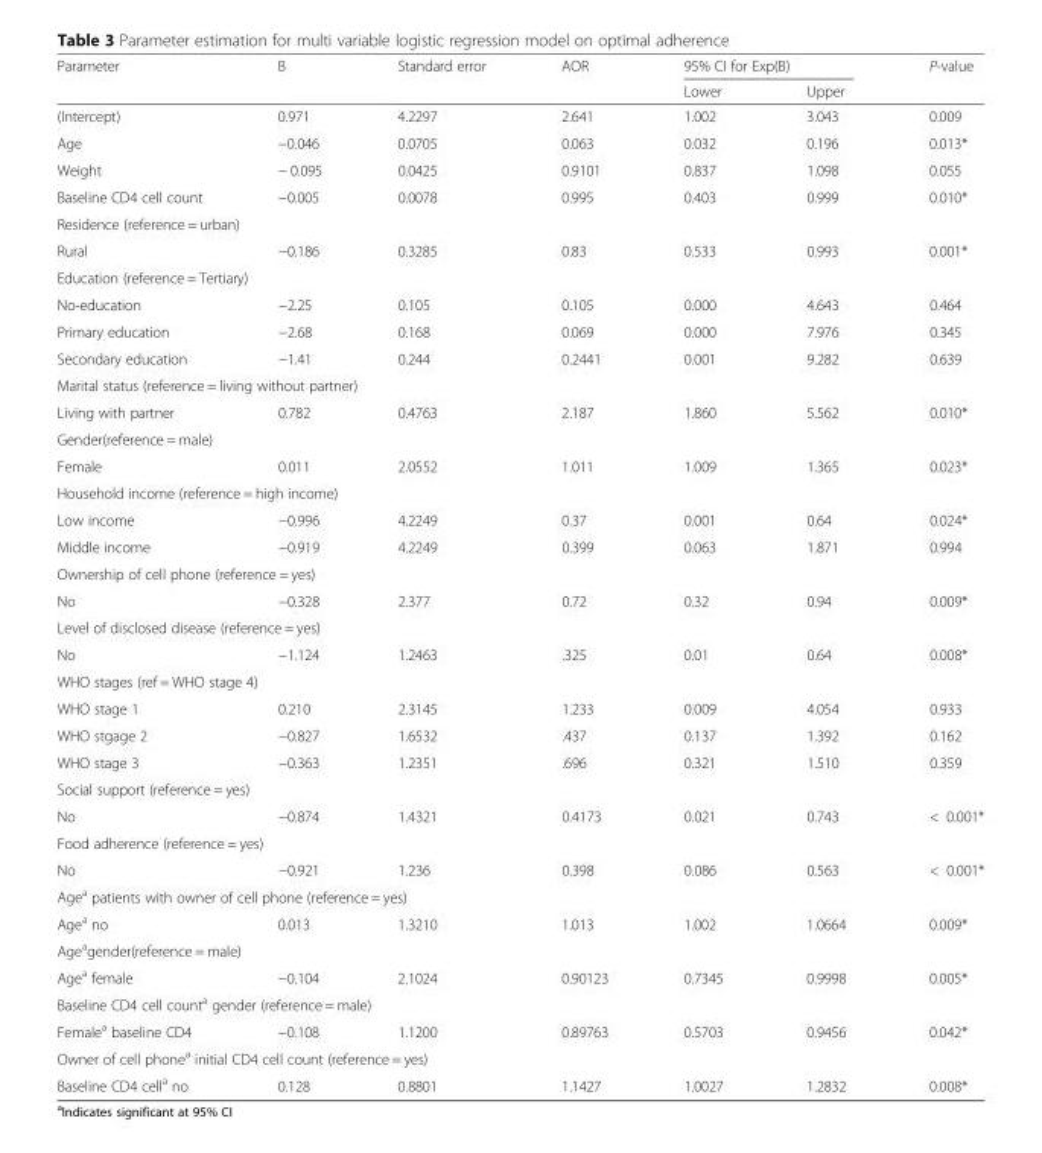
<table><thead><tr><td rowspan="2">Parameter</td><td rowspan="2">B</td><td rowspan="2">Standard error</td><td rowspan="2">AOR</td><td colspan="2">95% CI for Exp(B)</td><td rowspan="2">P-value</td></tr><tr><td>Lower</td><td>Upper</td></tr></thead><tbody><tr><td>(Intercept)</td><td>0.971</td><td>4.2297</td><td>2.641</td><td>1.002</td><td>3.043</td><td>0.009</td></tr><tr><td>Age</td><td>−0.046</td><td>0.0705</td><td>0.063</td><td>0.032</td><td>0.196</td><td>0.013*</td></tr><tr><td>Weight</td><td>− 0.095</td><td>0.0425</td><td>0.9101</td><td>0.837</td><td>1.098</td><td>0.055</td></tr><tr><td>Baseline CD4 cell count</td><td>−0.005</td><td>0.0078</td><td>0.995</td><td>0.403</td><td>0.999</td><td>0.010*</td></tr><tr><td colspan="7">Residence (reference = urban)</td></tr><tr><td>Rural</td><td>−0.186</td><td>0.3285</td><td>0.83</td><td>0.533</td><td>0.993</td><td>0.001*</td></tr><tr><td colspan="7">Education (reference = Tertiary)</td></tr><tr><td>No-education</td><td>−2.25</td><td>0.105</td><td>0.105</td><td>0.000</td><td>4.643</td><td>0.464</td></tr><tr><td>Primary education</td><td>−2.68</td><td>0.168</td><td>0.069</td><td>0.000</td><td>7.976</td><td>0.345</td></tr><tr><td>Secondary education</td><td>−1.41</td><td>0.244</td><td>0.2441</td><td>0.001</td><td>9.282</td><td>0.639</td></tr><tr><td colspan="7">Marital status (reference = living without partner)</td></tr><tr><td>Living with partner</td><td>0.782</td><td>0.4763</td><td>2.187</td><td>1.860</td><td>5.562</td><td>0.010*</td></tr><tr><td colspan="7">Gender(reference = male)</td></tr><tr><td>Female</td><td>0.011</td><td>2.0552</td><td>1.011</td><td>1.009</td><td>1.365</td><td>0.023*</td></tr><tr><td colspan="7">Household income (reference = high income)</td></tr><tr><td>Low income</td><td>−0.996</td><td>4.2249</td><td>0.37</td><td>0.001</td><td>0.64</td><td>0.024*</td></tr><tr><td>Middle income</td><td>−0.919</td><td>4.2249</td><td>0.399</td><td>0.063</td><td>1.871</td><td>0.994</td></tr><tr><td colspan="7">Ownership of cell phone (reference = yes)</td></tr><tr><td>No</td><td>−0.328</td><td>2.377</td><td>0.72</td><td>0.32</td><td>0.94</td><td>0.009*</td></tr><tr><td colspan="7">Level of disclosed disease (reference = yes)</td></tr><tr><td>No</td><td>−1.124</td><td>1.2463</td><td>.325</td><td>0.01</td><td>0.64</td><td>0.008*</td></tr><tr><td colspan="7">WHO stages (ref = WHO stage 4)</td></tr><tr><td>WHO stage 1</td><td>0.210</td><td>2.3145</td><td>1.233</td><td>0.009</td><td>4.054</td><td>0.933</td></tr><tr><td>WHO stgage 2</td><td>−0.827</td><td>1.6532</td><td>.437</td><td>0.137</td><td>1.392</td><td>0.162</td></tr><tr><td>WHO stage 3</td><td>−0.363</td><td>1.2351</td><td>.696</td><td>0.321</td><td>1.510</td><td>0.359</td></tr><tr><td colspan="7">Social support (reference = yes)</td></tr><tr><td>No</td><td>−0.874</td><td>1.4321</td><td>0.4173</td><td>0.021</td><td>0.743</td><td>&lt; 0.001*</td></tr><tr><td colspan="7">Food adherence (reference = yes)</td></tr><tr><td>No</td><td>−0.921</td><td>1.236</td><td>0.398</td><td>0.086</td><td>0.563</td><td>&lt; 0.001*</td></tr><tr><td colspan="7">Age<sup>a</sup> patients with owner of cell phone (reference = yes)</td></tr><tr><td>Age<sup>a</sup> no</td><td>0.013</td><td>1.3210</td><td>1.013</td><td>1.002</td><td>1.0664</td><td>0.009*</td></tr><tr><td colspan="7">Age<sup>a</sup>gender(reference = male)</td></tr><tr><td>Age<sup>a</sup> female</td><td>−0.104</td><td>2.1024</td><td>0.90123</td><td>0.7345</td><td>0.9998</td><td>0.005*</td></tr><tr><td colspan="7">Baseline CD4 cell count<sup>a</sup> gender (reference = male)</td></tr><tr><td>Female<sup>a</sup> baseline CD4</td><td>−0.108</td><td>1.1200</td><td>0.89763</td><td>0.5703</td><td>0.9456</td><td>0.042*</td></tr><tr><td colspan="7">Owner of cell phone<sup>a</sup> initial CD4 cell count (reference = yes)</td></tr><tr><td>Baseline CD4 cell<sup>a</sup> no</td><td>0.128</td><td>0.8801</td><td>1.1427</td><td>1.0027</td><td>1.2832</td><td>0.008*</td></tr></tbody></table>